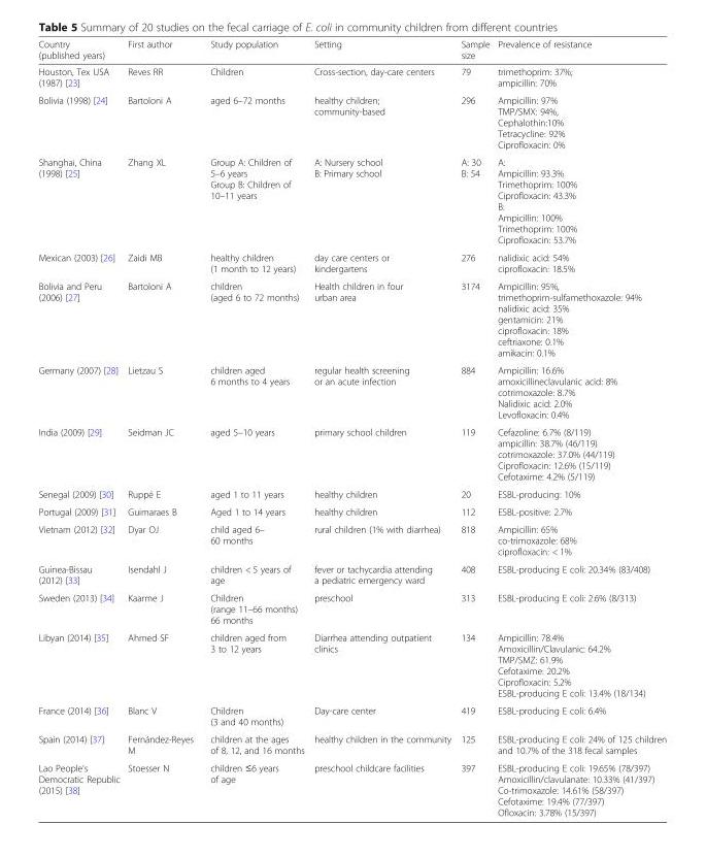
<table><thead><tr><td>Country (published years)</td><td>First author</td><td>Study population</td><td>Setting</td><td>Sample size</td><td>Prevalence of resistance</td></tr></thead><tbody><tr><td>Houston, Tex USA (1987) [23]</td><td>Reves RR</td><td>Children</td><td>Cross-section, day-care centers</td><td>79</td><td>trimethoprim: 37%; ampicillin: 70%</td></tr><tr><td>Bolivia (1998) [24]</td><td>Bartoloni A</td><td>aged 6–72 months</td><td>healthy children; community-based</td><td>296</td><td>Ampicillin: 97% TMP/SMX: 94%, Cephalothin:10% Tetracycline: 92% Ciprofloxacin: 0%</td></tr><tr><td>Shanghai, China (1998) [25]</td><td>Zhang XL</td><td>Group A: Children of 5–6 years Group B: Children of 10–11 years</td><td>A: Nursery school B: Primary school</td><td>A: 30 B: 54</td><td>A: Ampicillin: 93.3% Trimethoprim: 100% Ciprofloxacin: 43.3% B: Ampicillin: 100% Trimethoprim: 100% Ciprofloxacin: 53.7%</td></tr><tr><td>Mexican (2003) [26]</td><td>Zaidi MB</td><td>healthy children (1 month to 12 years)</td><td>day care centers or kindergartens</td><td>276</td><td>nalidixic acid: 54% ciprofloxacin: 18.5%</td></tr><tr><td>Bolivia and Peru (2006) [27]</td><td>Bartoloni A</td><td>children (aged 6 to 72 months)</td><td>Health children in four urban area</td><td>3174</td><td>Ampicillin: 95%, trimethoprim-sulfamethoxazole: 94% nalidixic acid: 35% gentamicin: 21% ciprofloxacin: 18% ceftriaxone: 0.1% amikacin: 0.1%</td></tr><tr><td>Germany (2007) [28]</td><td>Lietzau S</td><td>children aged 6 months to 4 years</td><td>regular health screening or an acute infection</td><td>884</td><td>Ampicillin: 16.6% amoxicillineclavulanic acid: 8% cotrimoxazole: 8.7% Nalidixic acid: 2.0% Levofloxacin: 0.4%</td></tr><tr><td>India (2009) [29]</td><td>Seidman JC</td><td>aged 5–10 years</td><td>primary school children</td><td>119</td><td>Cefazoline: 6.7% (8/119) ampicillin: 38.7% (46/119) cotrimoxazole: 37.0% (44/119) Ciprofloxacin: 12.6% (15/119) Cefotaxime: 4.2% (5/119)</td></tr><tr><td>Senegal (2009) [30]</td><td>Ruppé E</td><td>aged 1 to 11 years</td><td>healthy children</td><td>20</td><td>ESBL-producing: 10%</td></tr><tr><td>Portugal (2009) [31]</td><td>Guimaraes B</td><td>Aged 1 to 14 years</td><td>healthy children</td><td>112</td><td>ESBL-positive: 2.7%</td></tr><tr><td>Vietnam (2012) [32]</td><td>Dyar OJ</td><td>child aged 6– 60 months</td><td>rural children (1% with diarrhea)</td><td>818</td><td>Ampicillin: 65% co-trimoxazole: 68% ciprofloxacin: &lt; 1%</td></tr><tr><td>Guinea-Bissau (2012) [33]</td><td>Isendahl J</td><td>children &lt; 5 years of age</td><td>fever or tachycardia attending a pediatric emergency ward</td><td>408</td><td>ESBL-producing E coli: 20.34% (83/408)</td></tr><tr><td>Sweden (2013) [34]</td><td>Kaarme J</td><td>Children (range 11–66 months) 66 months</td><td>preschool</td><td>313</td><td>ESBL-producing E coli: 2.6% (8/313)</td></tr><tr><td>Libyan (2014) [35]</td><td>Ahmed SF</td><td>children aged from 3 to 12 years</td><td>Diarrhea attending outpatient clinics</td><td>134</td><td>Ampicillin: 78.4% Amoxicillin/Clavulanic: 64.2% TMP/SMZ: 61.9% Cefotaxime: 20.2% Ciprofloxacin: 5.2% ESBL-producing E coli: 13.4% (18/134)</td></tr><tr><td>France (2014) [36]</td><td>Blanc V</td><td>Children (3 and 40 months)</td><td>Day-care center</td><td>419</td><td>ESBL-producing E coli: 6.4%</td></tr><tr><td>Spain (2014) [37]</td><td>Fernández-Reyes M</td><td>children at the ages of 8, 12, and 16 months</td><td>healthy children in the community</td><td>125</td><td>ESBL-producing E coli: 24% of 125 children and 10.7% of the 318 fecal samples</td></tr><tr><td>Lao People’s Democratic Republic (2015) [38]</td><td>Stoesser N</td><td>children ≤6 years of age</td><td>preschool childcare facilities</td><td>397</td><td>ESBL-producing E coli: 19.65% (78/397) Amoxicillin/clavulanate: 10.33% (41/397) Co-trimoxazole: 14.61% (58/397) Cefotaxime: 19.4% (77/397) Ofloxacin: 3.78% (15/397)</td></tr></tbody></table>